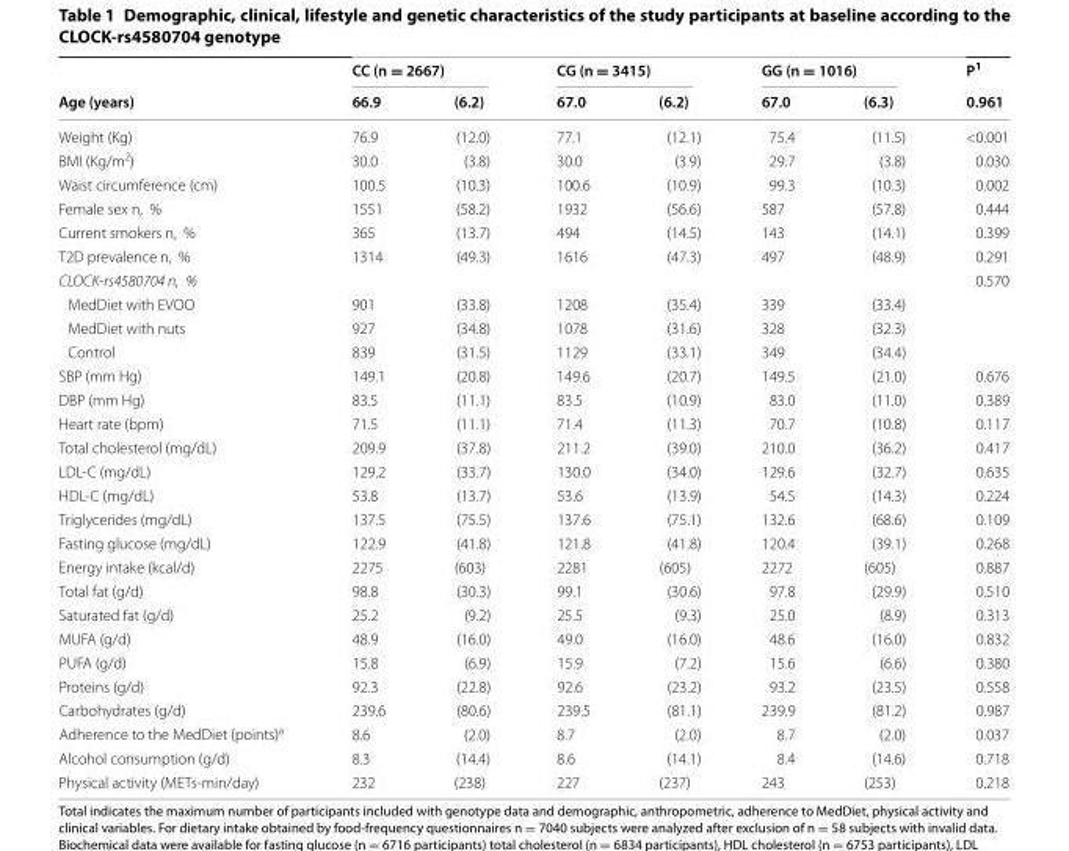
<table><thead><tr><td rowspan="2">Age (years)</td><td colspan="2">CC (n = 2667)</td><td colspan="2">CG (n = 3415)</td><td colspan="2">GG (n = 1016)</td><td rowspan="2">P<sup>1</sup> 0.961</td></tr><tr><td>66.9</td><td>(6.2)</td><td>67.0</td><td>(6.2)</td><td>67.0</td><td>(6.3)</td></tr></thead><tbody><tr><td>Weight (Kg)</td><td>76.9</td><td>(12.0)</td><td>77.1</td><td>(12.1)</td><td>75.4</td><td>(11.5)</td><td>&lt;0.001</td></tr><tr><td>BMI (Kg/m<sup>2</sup>)</td><td>30.0</td><td>(3.8)</td><td>30.0</td><td>(3.9)</td><td>29.7</td><td>(3.8)</td><td>0.030</td></tr><tr><td>Waist circumference (cm)</td><td>100.5</td><td>(10.3)</td><td>100.6</td><td>(10.9)</td><td>99.3</td><td>(10.3)</td><td>0.002</td></tr><tr><td>Female sex n, %</td><td>1551</td><td>(58.2)</td><td>1932</td><td>(56.6)</td><td>587</td><td>(57.8)</td><td>0.444</td></tr><tr><td>Current smokers n, %</td><td>365</td><td>(13.7)</td><td>494</td><td>(14.5)</td><td>143</td><td>(14.1)</td><td>0.399</td></tr><tr><td>T2D prevalence n, %</td><td>1314</td><td>(49.3)</td><td>1616</td><td>(47.3)</td><td>497</td><td>(48.9)</td><td>0.291</td></tr><tr><td>CLOCK‑rs4580704 n, %</td><td></td><td></td><td></td><td></td><td></td><td></td><td>0.570</td></tr><tr><td>MedDiet with EVOO</td><td>901</td><td>(33.8)</td><td>1208</td><td>(35.4)</td><td>339</td><td>(33.4)</td><td></td></tr><tr><td>MedDiet with nuts</td><td>927</td><td>(34.8)</td><td>1078</td><td>(31.6)</td><td>328</td><td>(32.3)</td><td></td></tr><tr><td>Control</td><td>839</td><td>(31.5)</td><td>1129</td><td>(33.1)</td><td>349</td><td>(34.4)</td><td></td></tr><tr><td>SBP (mm Hg)</td><td>149.1</td><td>(20.8)</td><td>149.6</td><td>(20.7)</td><td>149.5</td><td>(21.0)</td><td>0.676</td></tr><tr><td>DBP (mm Hg)</td><td>83.5</td><td>(11.1)</td><td>83.5</td><td>(10.9)</td><td>83.0</td><td>(11.0)</td><td>0.389</td></tr><tr><td>Heart rate (bpm)</td><td>71.5</td><td>(11.1)</td><td>71.4</td><td>(11.3)</td><td>70.7</td><td>(10.8)</td><td>0.117</td></tr><tr><td>Total cholesterol (mg/dL)</td><td>209.9</td><td>(37.8)</td><td>211.2</td><td>(39.0)</td><td>210.0</td><td>(36.2)</td><td>0.417</td></tr><tr><td>LDL‑C (mg/dL)</td><td>129.2</td><td>(33.7)</td><td>130.0</td><td>(34.0)</td><td>129.6</td><td>(32.7)</td><td>0.635</td></tr><tr><td>HDL‑C (mg/dL)</td><td>53.8</td><td>(13.7)</td><td>53.6</td><td>(13.9)</td><td>54.5</td><td>(14.3)</td><td>0.224</td></tr><tr><td>Triglycerides (mg/dL)</td><td>137.5</td><td>(75.5)</td><td>137.6</td><td>(75.1)</td><td>132.6</td><td>(68.6)</td><td>0.109</td></tr><tr><td>Fasting glucose (mg/dL)</td><td>122.9</td><td>(41.8)</td><td>121.8</td><td>(41.8)</td><td>120.4</td><td>(39.1)</td><td>0.268</td></tr><tr><td>Energy intake (kcal/d)</td><td>2275</td><td>(603)</td><td>2281</td><td>(605)</td><td>2272</td><td>(605)</td><td>0.887</td></tr><tr><td>Total fat (g/d)</td><td>98.8</td><td>(30.3)</td><td>99.1</td><td>(30.6)</td><td>97.8</td><td>(29.9)</td><td>0.510</td></tr><tr><td>Saturated fat (g/d)</td><td>25.2</td><td>(9.2)</td><td>25.5</td><td>(9.3)</td><td>25.0</td><td>(8.9)</td><td>0.313</td></tr><tr><td>MUFA (g/d)</td><td>48.9</td><td>(16.0)</td><td>49.0</td><td>(16.0)</td><td>48.6</td><td>(16.0)</td><td>0.832</td></tr><tr><td>PUFA (g/d)</td><td>15.8</td><td>(6.9)</td><td>15.9</td><td>(7.2)</td><td>15.6</td><td>(6.6)</td><td>0.380</td></tr><tr><td>Proteins (g/d)</td><td>92.3</td><td>(22.8)</td><td>92.6</td><td>(23.2)</td><td>93.2</td><td>(23.5)</td><td>0.558</td></tr><tr><td>Carbohydrates (g/d)</td><td>239.6</td><td>(80.6)</td><td>239.5</td><td>(81.1)</td><td>239.9</td><td>(81.2)</td><td>0.987</td></tr><tr><td>Adherence to the MedDiet (points)<sup>a</sup></td><td>8.6</td><td>(2.0)</td><td>8.7</td><td>(2.0)</td><td>8.7</td><td>(2.0)</td><td>0.037</td></tr><tr><td>Alcohol consumption (g/d)</td><td>8.3</td><td>(14.4)</td><td>8.6</td><td>(14.1)</td><td>8.4</td><td>(14.6)</td><td>0.718</td></tr><tr><td>Physical activity (METs‑min/day)</td><td>232</td><td>(238)</td><td>227</td><td>(237)</td><td>243</td><td>(253)</td><td>0.218</td></tr></tbody></table>